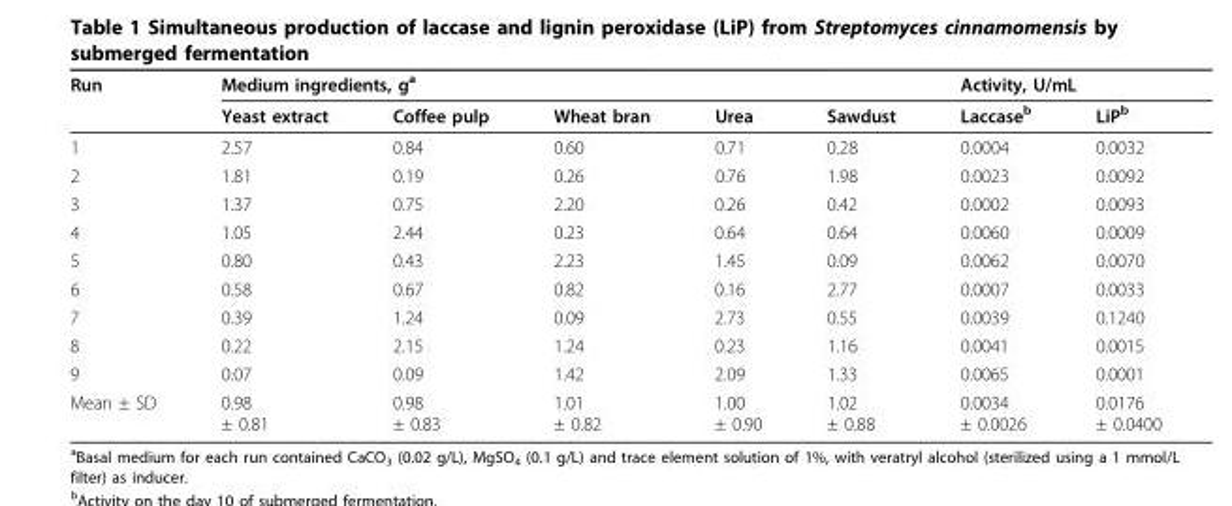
<table><thead><tr><td rowspan="2">Run</td><td colspan="5">Medium ingredients, g<sup>a</sup></td><td colspan="2">Activity, U/mL</td></tr><tr><td>Yeast extract</td><td>Coffee pulp</td><td>Wheat bran</td><td>Urea</td><td>Sawdust</td><td>Laccase<sup>b</sup></td><td>LiP<sup>b</sup></td></tr></thead><tbody><tr><td>1</td><td>2.57</td><td>0.84</td><td>0.60</td><td>0.71</td><td>0.28</td><td>0.0004</td><td>0.0032</td></tr><tr><td>2</td><td>1.81</td><td>0.19</td><td>0.26</td><td>0.76</td><td>1.98</td><td>0.0023</td><td>0.0092</td></tr><tr><td>3</td><td>1.37</td><td>0.75</td><td>2.20</td><td>0.26</td><td>0.42</td><td>0.0002</td><td>0.0093</td></tr><tr><td>4</td><td>1.05</td><td>2.44</td><td>0.23</td><td>0.64</td><td>0.64</td><td>0.0060</td><td>0.0009</td></tr><tr><td>5</td><td>0.80</td><td>0.43</td><td>2.23</td><td>1.45</td><td>0.09</td><td>0.0062</td><td>0.0070</td></tr><tr><td>6</td><td>0.58</td><td>0.67</td><td>0.82</td><td>0.16</td><td>2.77</td><td>0.0007</td><td>0.0033</td></tr><tr><td>7</td><td>0.39</td><td>1.24</td><td>0.09</td><td>2.73</td><td>0.55</td><td>0.0039</td><td>0.1240</td></tr><tr><td>8</td><td>0.22</td><td>2.15</td><td>1.24</td><td>0.23</td><td>1.16</td><td>0.0041</td><td>0.0015</td></tr><tr><td>9</td><td>0.07</td><td>0.09</td><td>1.42</td><td>2.09</td><td>1.33</td><td>0.0065</td><td>0.0001</td></tr><tr><td>Mean ± SD</td><td>0.98 ± 0.81</td><td>0.98 ± 0.83</td><td>1.01 ± 0.82</td><td>1.00 ± 0.90</td><td>1.02 ± 0.88</td><td>0.0034 ± 0.0026</td><td>0.0176 ± 0.0400</td></tr></tbody></table>